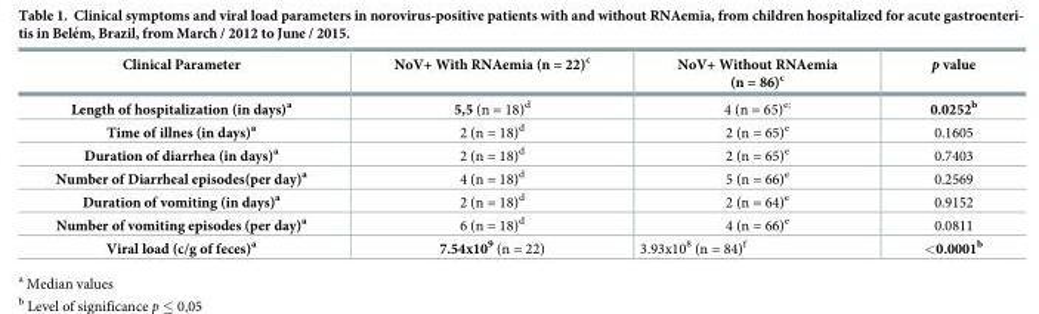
<table><thead><tr><td>Clinical Parameter</td><td>NoV+ With RNAemia (n = 22)<sup>c</sup></td><td>NoV+ Without RNAemia (n = 86)<sup>c</sup></td><td>p value</td></tr></thead><tbody><tr><td>Length of hospitalization (in days)<sup>a</sup></td><td>5,5 (n = 18)<sup>d</sup></td><td>4 (n = 65)<sup>e;</sup></td><td>0.0252<sup>b</sup></td></tr><tr><td>Time of illnes (in days)<sup>a</sup></td><td>2 (n = 18)<sup>d</sup></td><td>2 (n = 65)<sup>e</sup></td><td>0.1605</td></tr><tr><td>Duration of diarrhea (in days)<sup>a</sup></td><td>2 (n = 18)<sup>d</sup></td><td>2 (n = 65)<sup>e</sup></td><td>0.7403</td></tr><tr><td>Number of Diarrheal episodes(per day)<sup>a</sup></td><td>4 (n = 18)<sup>d</sup></td><td>5 (n = 66)<sup>e</sup></td><td>0.2569</td></tr><tr><td>Duration of vomiting (in days)<sup>a</sup></td><td>2 (n = 18)<sup>d</sup></td><td>2 (n = 64)<sup>e</sup></td><td>0.9152</td></tr><tr><td>Number of vomiting episodes (per day)<sup>a</sup></td><td>6 (n = 18)<sup>d</sup></td><td>4 (n = 66)<sup>e</sup></td><td>0.0811</td></tr><tr><td>Viral load (c/g of feces)<sup>a</sup></td><td>7.54x10<sup>9</sup> (n = 22)</td><td>3.93x10<sup>8</sup> (n = 84)<sup>f</sup></td><td>&lt;0.0001<sup>b</sup></td></tr></tbody></table>